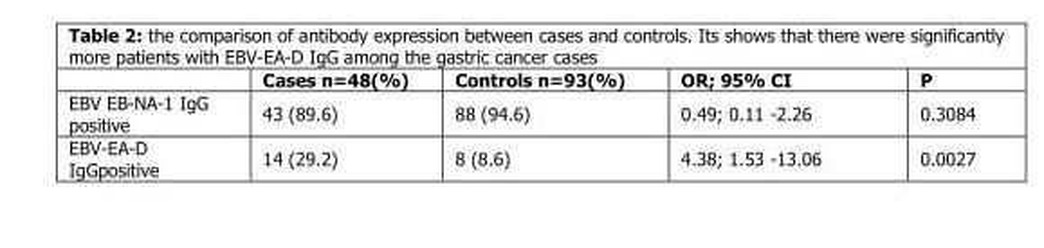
<table><thead><tr><td></td><td>Cases n=48(%)</td><td>Controls n=93(%)</td><td>OR; 95% CI</td><td>P</td></tr></thead><tbody><tr><td>EBV EB-NA-1 IgG positive</td><td>43 (89.6)</td><td>88 (94.6)</td><td>0.49; 0.11 -2.26</td><td>0.3084</td></tr><tr><td>EBV-EA-D IgGpositive</td><td>14 (29.2)</td><td>8 (8.6)</td><td>4.38; 1.53 -13.06</td><td>0.0027</td></tr></tbody></table>